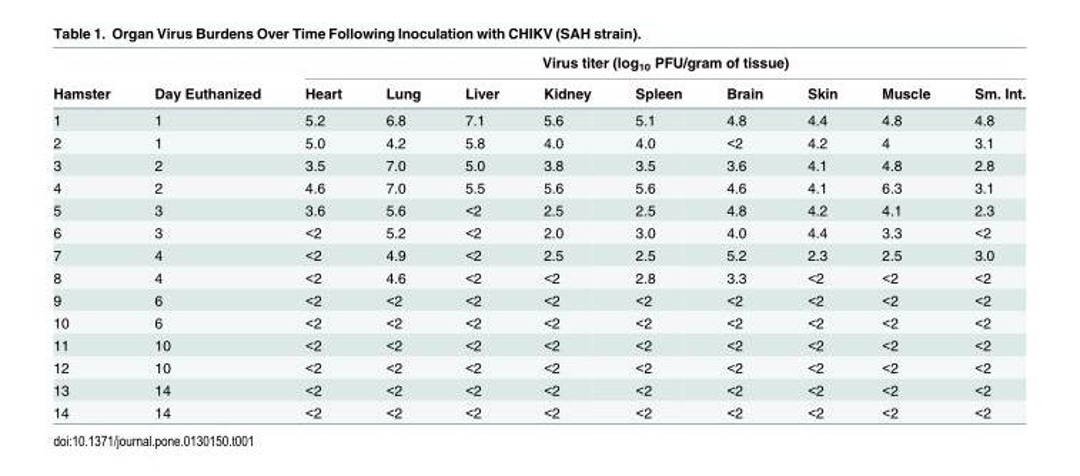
<table><thead><tr><td rowspan="2">Hamster</td><td rowspan="2">Day Euthanized</td><td colspan="9">Virus titer (log<sub>10</sub> PFU/gram of tissue)</td></tr><tr><td>Heart</td><td>Lung</td><td>Liver</td><td>Kidney</td><td>Spleen</td><td>Brain</td><td>Skin</td><td>Muscle</td><td>Sm. Int.</td></tr></thead><tbody><tr><td>1</td><td>1</td><td>5.2</td><td>6.8</td><td>7.1</td><td>5.6</td><td>5.1</td><td>4.8</td><td>4.4</td><td>4.8</td><td>4.8</td></tr><tr><td>2</td><td>1</td><td>5.0</td><td>4.2</td><td>5.8</td><td>4.0</td><td>4.0</td><td>&lt;2</td><td>4.2</td><td>4</td><td>3.1</td></tr><tr><td>3</td><td>2</td><td>3.5</td><td>7.0</td><td>5.0</td><td>3.8</td><td>3.5</td><td>3.6</td><td>4.1</td><td>4.8</td><td>2.8</td></tr><tr><td>4</td><td>2</td><td>4.6</td><td>7.0</td><td>5.5</td><td>5.6</td><td>5.6</td><td>4.6</td><td>4.1</td><td>6.3</td><td>3.1</td></tr><tr><td>5</td><td>3</td><td>3.6</td><td>5.6</td><td>&lt;2</td><td>2.5</td><td>2.5</td><td>4.8</td><td>4.2</td><td>4.1</td><td>2.3</td></tr><tr><td>6</td><td>3</td><td>&lt;2</td><td>5.2</td><td>&lt;2</td><td>2.0</td><td>3.0</td><td>4.0</td><td>4.4</td><td>3.3</td><td>&lt;2</td></tr><tr><td>7</td><td>4</td><td>&lt;2</td><td>4.9</td><td>&lt;2</td><td>2.5</td><td>2.5</td><td>5.2</td><td>2.3</td><td>2.5</td><td>3.0</td></tr><tr><td>8</td><td>4</td><td>&lt;2</td><td>4.6</td><td>&lt;2</td><td>&lt;2</td><td>2.8</td><td>3.3</td><td>&lt;2</td><td>&lt;2</td><td>&lt;2</td></tr><tr><td>9</td><td>6</td><td>&lt;2</td><td>&lt;2</td><td>&lt;2</td><td>&lt;2</td><td>&lt;2</td><td>&lt;2</td><td>&lt;2</td><td>&lt;2</td><td>&lt;2</td></tr><tr><td>10</td><td>6</td><td>&lt;2</td><td>&lt;2</td><td>&lt;2</td><td>&lt;2</td><td>&lt;2</td><td>&lt;2</td><td>&lt;2</td><td>&lt;2</td><td>&lt;2</td></tr><tr><td>11</td><td>10</td><td>&lt;2</td><td>&lt;2</td><td>&lt;2</td><td>&lt;2</td><td>&lt;2</td><td>&lt;2</td><td>&lt;2</td><td>&lt;2</td><td>&lt;2</td></tr><tr><td>12</td><td>10</td><td>&lt;2</td><td>&lt;2</td><td>&lt;2</td><td>&lt;2</td><td>&lt;2</td><td>&lt;2</td><td>&lt;2</td><td>&lt;2</td><td>&lt;2</td></tr><tr><td>13</td><td>14</td><td>&lt;2</td><td>&lt;2</td><td>&lt;2</td><td>&lt;2</td><td>&lt;2</td><td>&lt;2</td><td>&lt;2</td><td>&lt;2</td><td>&lt;2</td></tr><tr><td>14</td><td>14</td><td>&lt;2</td><td>&lt;2</td><td>&lt;2</td><td>&lt;2</td><td>&lt;2</td><td>&lt;2</td><td>&lt;2</td><td>&lt;2</td><td>&lt;2</td></tr></tbody></table>